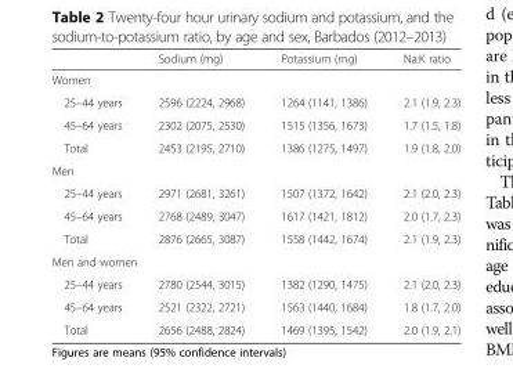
<table><thead><tr><td></td><td>Sodium (mg)</td><td>Potassium (mg)</td><td>Na:K ratio</td></tr></thead><tbody><tr><td colspan="4">Women</td></tr><tr><td>25–44 years</td><td>2596 (2224, 2968)</td><td>1264 (1141, 1386)</td><td>2.1 (1.9, 2.3)</td></tr><tr><td>45–64 years</td><td>2302 (2075, 2530)</td><td>1515 (1356, 1673)</td><td>1.7 (1.5, 1.8)</td></tr><tr><td>Total</td><td>2453 (2195, 2710)</td><td>1386 (1275, 1497)</td><td>1.9 (1.8, 2.0)</td></tr><tr><td colspan="4">Men</td></tr><tr><td>25–44 years</td><td>2971 (2681, 3261)</td><td>1507 (1372, 1642)</td><td>2.1 (2.0, 2.3)</td></tr><tr><td>45–64 years</td><td>2768 (2489, 3047)</td><td>1617 (1421, 1812)</td><td>2.0 (1.7, 2.3)</td></tr><tr><td>Total</td><td>2876 (2665, 3087)</td><td>1558 (1442, 1674)</td><td>2.1 (1.9, 2.3)</td></tr><tr><td colspan="4">Men and women</td></tr><tr><td>25–44 years</td><td>2780 (2544, 3015)</td><td>1382 (1290, 1475)</td><td>2.1 (2.0, 2.3)</td></tr><tr><td>45–64 years</td><td>2521 (2322, 2721)</td><td>1563 (1440, 1684)</td><td>1.8 (1.7, 2.0)</td></tr><tr><td>Total</td><td>2656 (2488, 2824)</td><td>1469 (1395, 1542)</td><td>2.0 (1.9, 2.1)</td></tr></tbody></table>